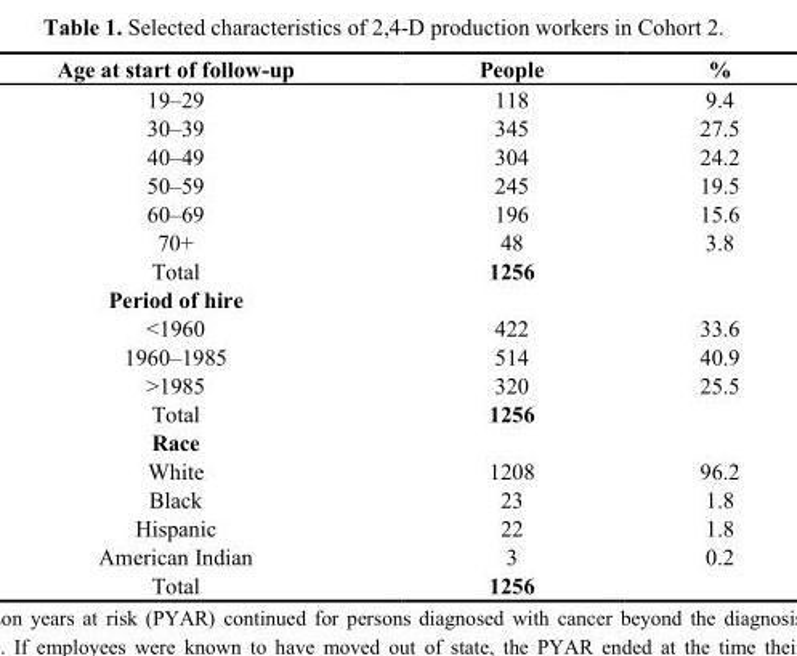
<table><thead><tr><td>Age at start of follow-up</td><td>People</td><td>%</td></tr></thead><tbody><tr><td>19–29</td><td>118</td><td>9.4</td></tr><tr><td>30–39</td><td>345</td><td>27.5</td></tr><tr><td>40–49</td><td>304</td><td>24.2</td></tr><tr><td>50–59</td><td>245</td><td>19.5</td></tr><tr><td>60–69</td><td>196</td><td>15.6</td></tr><tr><td>70+</td><td>48</td><td>3.8</td></tr><tr><td>Total</td><td>1256</td><td></td></tr><tr><td colspan="3">Period of hire</td></tr><tr><td>&lt;1960</td><td>422</td><td>33.6</td></tr><tr><td>1960–1985</td><td>514</td><td>40.9</td></tr><tr><td>&gt;1985</td><td>320</td><td>25.5</td></tr><tr><td>Total</td><td>1256</td><td></td></tr><tr><td colspan="3">Race</td></tr><tr><td>White</td><td>1208</td><td>96.2</td></tr><tr><td>Black</td><td>23</td><td>1.8</td></tr><tr><td>Hispanic</td><td>22</td><td>1.8</td></tr><tr><td>American Indian</td><td>3</td><td>0.2</td></tr><tr><td>Total</td><td>1256</td><td></td></tr></tbody></table>